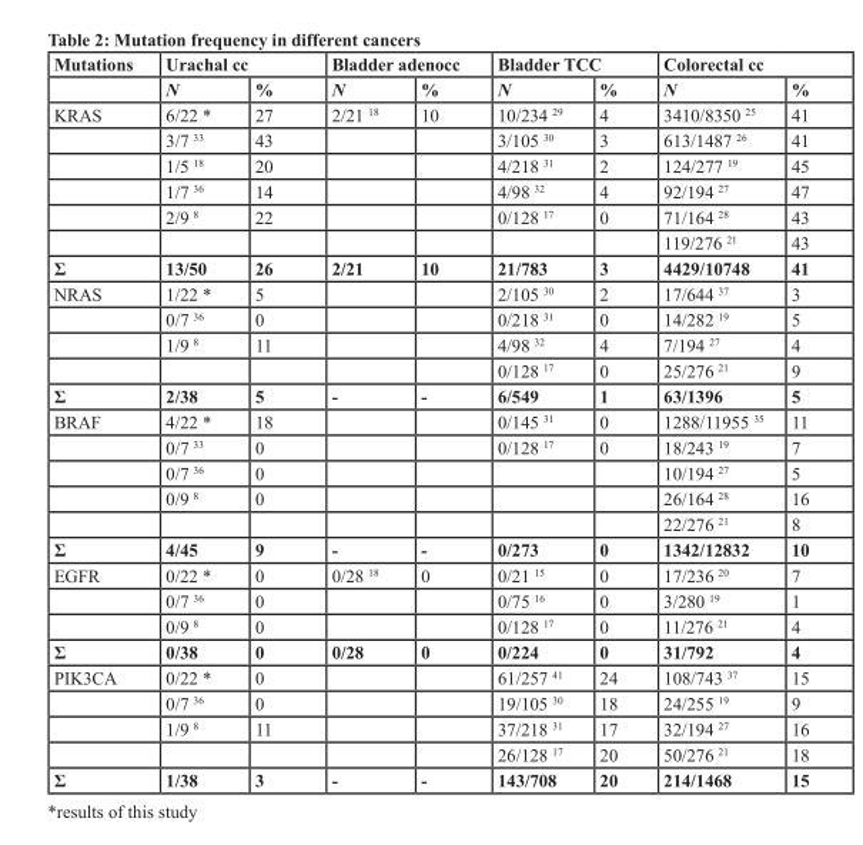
<table><thead><tr><td rowspan="2">Mutations</td><td colspan="2">Urachal cc</td><td colspan="2">Bladder adenocc</td><td colspan="2">Bladder TCC</td><td colspan="2">Colorectal cc</td></tr><tr><td>N</td><td>%</td><td>N</td><td>%</td><td>N</td><td>%</td><td>N</td><td>%</td></tr></thead><tbody><tr><td rowspan="6">KRAS</td><td>6/22 *</td><td>27</td><td>2/21 <sup>18</sup></td><td>10</td><td>10/234 <sup>29</sup></td><td>4</td><td>3410/8350 <sup>25</sup></td><td>41</td></tr><tr><td>3/7 <sup>33</sup></td><td>43</td><td></td><td></td><td>3/105 <sup>30</sup></td><td>3</td><td>613/1487 <sup>26</sup></td><td>41</td></tr><tr><td>1/5 <sup>18</sup></td><td>20</td><td></td><td></td><td>4/218 <sup>31</sup></td><td>2</td><td>124/277 <sup>19</sup></td><td>45</td></tr><tr><td>1/7 <sup>36</sup></td><td>14</td><td></td><td></td><td>4/98 <sup>32</sup></td><td>4</td><td>92/194 <sup>27</sup></td><td>47</td></tr><tr><td>2/9 <sup>8</sup></td><td>22</td><td></td><td></td><td>0/128 <sup>17</sup></td><td>0</td><td>71/164 <sup>28</sup></td><td>43</td></tr><tr><td></td><td></td><td></td><td></td><td></td><td></td><td>119/276 <sup>21</sup></td><td>43</td></tr><tr><td>Ʃ</td><td>13/50</td><td>26</td><td>2/21</td><td>10</td><td>21/783</td><td>3</td><td>4429/10748</td><td>41</td></tr><tr><td rowspan="4">NRAS</td><td>1/22 *</td><td>5</td><td></td><td></td><td>2/105 <sup>30</sup></td><td>2</td><td>17/644 <sup>37</sup></td><td>3</td></tr><tr><td>0/7 <sup>36</sup></td><td>0</td><td></td><td></td><td>0/218 <sup>31</sup></td><td>0</td><td>14/282 <sup>19</sup></td><td>5</td></tr><tr><td>1/9 <sup>8</sup></td><td>11</td><td></td><td></td><td>4/98 <sup>32</sup></td><td>4</td><td>7/194 <sup>27</sup></td><td>4</td></tr><tr><td></td><td></td><td></td><td></td><td>0/128 <sup>17</sup></td><td>0</td><td>25/276 <sup>21</sup></td><td>9</td></tr><tr><td>Ʃ</td><td>2/38</td><td>5</td><td>-</td><td>-</td><td>6/549</td><td>1</td><td>63/1396</td><td>5</td></tr><tr><td rowspan="5">BRAF</td><td>4/22 *</td><td>18</td><td></td><td></td><td>0/145 <sup>31</sup></td><td>0</td><td>1288/11955 <sup>35</sup></td><td>11</td></tr><tr><td>0/7 <sup>33</sup></td><td>0</td><td></td><td></td><td>0/128 <sup>17</sup></td><td>0</td><td>18/243 <sup>19</sup></td><td>7</td></tr><tr><td>0/7 <sup>36</sup></td><td>0</td><td></td><td></td><td></td><td></td><td>10/194 <sup>27</sup></td><td>5</td></tr><tr><td>0/9 <sup>8</sup></td><td>0</td><td></td><td></td><td></td><td></td><td>26/164 <sup>28</sup></td><td>16</td></tr><tr><td></td><td></td><td></td><td></td><td></td><td></td><td>22/276 <sup>21</sup></td><td>8</td></tr><tr><td>Ʃ</td><td>4/45</td><td>9</td><td>-</td><td>-</td><td>0/273</td><td>0</td><td>1342/12832</td><td>10</td></tr><tr><td rowspan="3">EGFR</td><td>0/22 *</td><td>0</td><td>0/28 <sup>18</sup></td><td>0</td><td>0/21 <sup>15</sup></td><td>0</td><td>17/236 <sup>20</sup></td><td>7</td></tr><tr><td>0/7 <sup>36</sup></td><td>0</td><td></td><td></td><td>0/75 <sup>16</sup></td><td>0</td><td>3/280 <sup>19</sup></td><td>1</td></tr><tr><td>0/9 <sup>8</sup></td><td>0</td><td></td><td></td><td>0/128 <sup>17</sup></td><td>0</td><td>11/276 <sup>21</sup></td><td>4</td></tr><tr><td>Ʃ</td><td>0/38</td><td>0</td><td>0/28</td><td>0</td><td>0/224</td><td>0</td><td>31/792</td><td>4</td></tr><tr><td rowspan="4">PIK3CA</td><td>0/22 *</td><td>0</td><td></td><td></td><td>61/257 <sup>41</sup></td><td>24</td><td>108/743 <sup>37</sup></td><td>15</td></tr><tr><td>0/7 <sup>36</sup></td><td>0</td><td></td><td></td><td>19/105 <sup>30</sup></td><td>18</td><td>24/255 <sup>19</sup></td><td>9</td></tr><tr><td>1/9 <sup>8</sup></td><td>11</td><td></td><td></td><td>37/218 <sup>31</sup></td><td>17</td><td>32/194 <sup>27</sup></td><td>16</td></tr><tr><td></td><td></td><td></td><td></td><td>26/128 <sup>17</sup></td><td>20</td><td>50/276 <sup>21</sup></td><td>18</td></tr><tr><td>Ʃ</td><td>1/38</td><td>3</td><td>-</td><td>-</td><td>143/708</td><td>20</td><td>214/1468</td><td>15</td></tr></tbody></table>